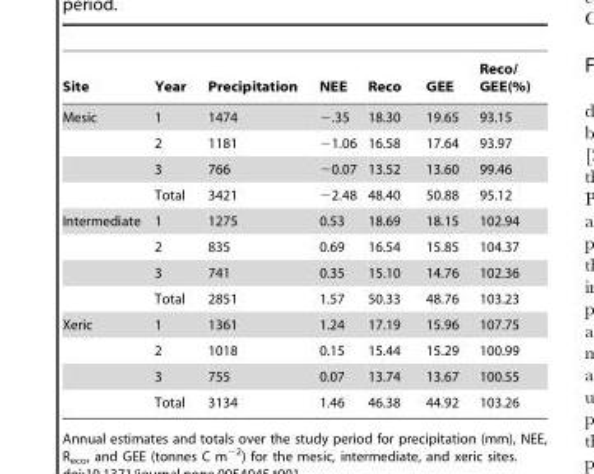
<table><thead><tr><td>Site</td><td>Year</td><td>Precipitation</td><td>NEE</td><td>Reco</td><td>GEE</td><td>Reco/ GEE(%)</td></tr></thead><tbody><tr><td rowspan="4">Mesic</td><td>1</td><td>1474</td><td>−.35</td><td>18.30</td><td>19.65</td><td>93.15</td></tr><tr><td>2</td><td>1181</td><td>−1.06</td><td>16.58</td><td>17.64</td><td>93.97</td></tr><tr><td>3</td><td>766</td><td>−0.07</td><td>13.52</td><td>13.60</td><td>99.46</td></tr><tr><td>Total</td><td>3421</td><td>−2.48</td><td>48.40</td><td>50.88</td><td>95.12</td></tr><tr><td rowspan="4">Intermediate</td><td>1</td><td>1275</td><td>0.53</td><td>18.69</td><td>18.15</td><td>102.94</td></tr><tr><td>2</td><td>835</td><td>0.69</td><td>16.54</td><td>15.85</td><td>104.37</td></tr><tr><td>3</td><td>741</td><td>0.35</td><td>15.10</td><td>14.76</td><td>102.36</td></tr><tr><td>Total</td><td>2851</td><td>1.57</td><td>50.33</td><td>48.76</td><td>103.23</td></tr><tr><td rowspan="4">Xeric</td><td>1</td><td>1361</td><td>1.24</td><td>17.19</td><td>15.96</td><td>107.75</td></tr><tr><td>2</td><td>1018</td><td>0.15</td><td>15.44</td><td>15.29</td><td>100.99</td></tr><tr><td>3</td><td>755</td><td>0.07</td><td>13.74</td><td>13.67</td><td>100.55</td></tr><tr><td>Total</td><td>3134</td><td>1.46</td><td>46.38</td><td>44.92</td><td>103.26</td></tr></tbody></table>